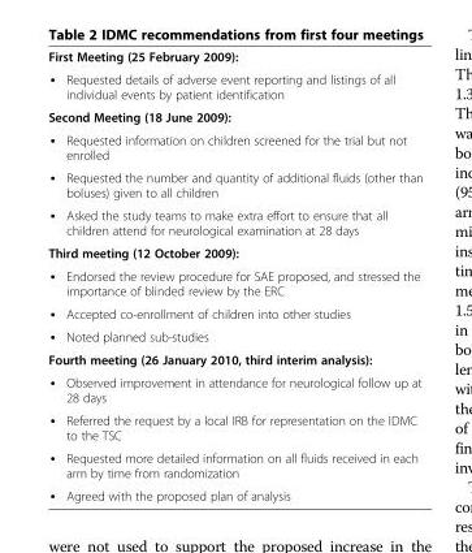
<table><tbody><tr><td colspan="2">First Meeting (25 February 2009):</td></tr><tr><td>∙</td><td>Requested details of adverse event reporting and listings of all individual events by patient identification</td></tr><tr><td colspan="2">Second Meeting (18 June 2009):</td></tr><tr><td>∙</td><td>Requested information on children screened for the trial but not enrolled</td></tr><tr><td>∙</td><td>Requested the number and quantity of additional fluids (other than boluses) given to all children</td></tr><tr><td>∙</td><td>Asked the study teams to make extra effort to ensure that all children attend for neurological examination at 28 days</td></tr><tr><td colspan="2">Third meeting (12 October 2009):</td></tr><tr><td>∙</td><td>Endorsed the review procedure for SAE proposed, and stressed the importance of blinded review by the ERC</td></tr><tr><td>∙</td><td>Accepted co-enrollment of children into other studies</td></tr><tr><td>∙</td><td>Noted planned sub-studies</td></tr><tr><td colspan="2">Fourth meeting (26 January 2010, third interim analysis):</td></tr><tr><td>∙</td><td>Observed improvement in attendance for neurological follow up at 28 days</td></tr><tr><td>∙</td><td>Referred the request by a local IRB for representation on the IDMC to the TSC</td></tr><tr><td>∙</td><td>Requested more detailed information on all fluids received in each arm by time from randomization</td></tr><tr><td>∙</td><td>Agreed with the proposed plan of analysis</td></tr></tbody></table>